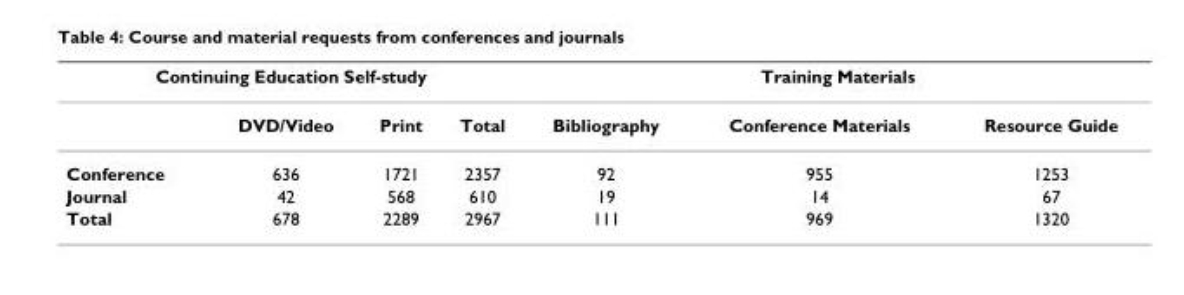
<table><thead><tr><td colspan="4">Continuing Education Self-study</td><td colspan="3">Training Materials</td></tr><tr><td></td><td>DVD/Video</td><td>Print</td><td>Total</td><td>Bibliography</td><td>Conference Materials</td><td>Resource Guide</td></tr></thead><tbody><tr><td>Conference</td><td>636</td><td>1721</td><td>2357</td><td>92</td><td>955</td><td>1253</td></tr><tr><td>Journal</td><td>42</td><td>568</td><td>610</td><td>19</td><td>14</td><td>67</td></tr><tr><td>Total</td><td>678</td><td>2289</td><td>2967</td><td>111</td><td>969</td><td>1320</td></tr></tbody></table>